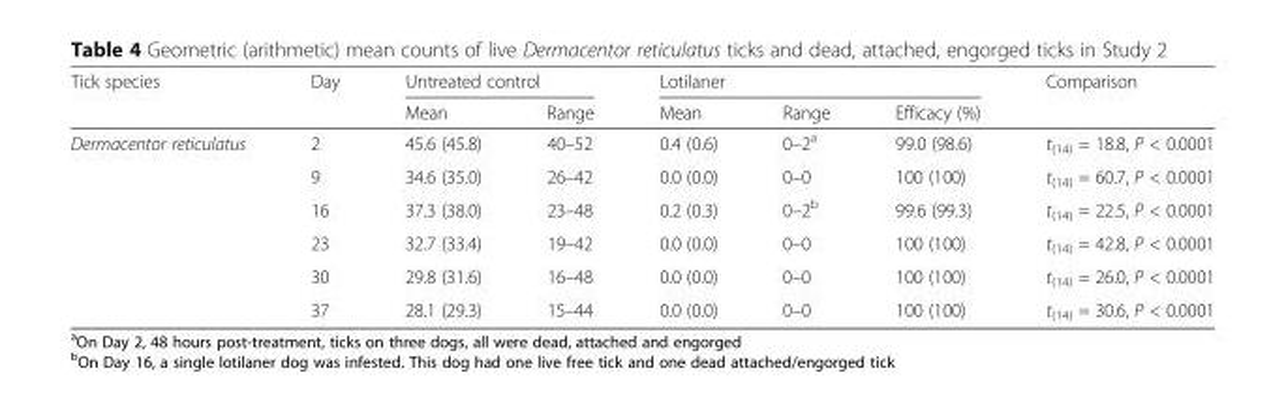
<table><thead><tr><td rowspan="2">Tick species</td><td rowspan="2">Day</td><td colspan="2">Untreated control</td><td colspan="3">Lotilaner</td><td rowspan="2">Comparison</td></tr><tr><td>Mean</td><td>Range</td><td>Mean</td><td>Range</td><td>Efficacy (%)</td></tr></thead><tbody><tr><td rowspan="6">Dermacentor reticulatus</td><td>2</td><td>45.6 (45.8)</td><td>40–52</td><td>0.4 (0.6)</td><td>0–2<sup>a</sup></td><td>99.0 (98.6)</td><td>t<sub>(14)</sub> = 18.8, P &lt; 0.0001</td></tr><tr><td>9</td><td>34.6 (35.0)</td><td>26–42</td><td>0.0 (0.0)</td><td>0–0</td><td>100 (100)</td><td>t<sub>(14)</sub> = 60.7, P &lt; 0.0001</td></tr><tr><td>16</td><td>37.3 (38.0)</td><td>23–48</td><td>0.2 (0.3)</td><td>0–2<sup>b</sup></td><td>99.6 (99.3)</td><td>t<sub>(14)</sub> = 22.5, P &lt; 0.0001</td></tr><tr><td>23</td><td>32.7 (33.4)</td><td>19–42</td><td>0.0 (0.0)</td><td>0–0</td><td>100 (100)</td><td>t<sub>(14)</sub> = 42.8, P &lt; 0.0001</td></tr><tr><td>30</td><td>29.8 (31.6)</td><td>16–48</td><td>0.0 (0.0)</td><td>0–0</td><td>100 (100)</td><td>t<sub>(14)</sub> = 26.0, P &lt; 0.0001</td></tr><tr><td>37</td><td>28.1 (29.3)</td><td>15–44</td><td>0.0 (0.0)</td><td>0–0</td><td>100 (100)</td><td>t<sub>(14)</sub> = 30.6, P &lt; 0.0001</td></tr></tbody></table>